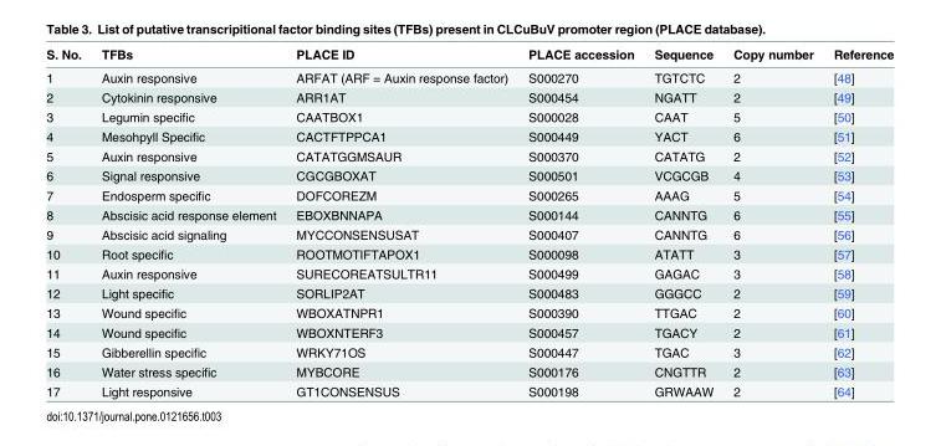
<table><thead><tr><td>S. No.</td><td>TFBs</td><td>PLACE ID</td><td>PLACE accession</td><td>Sequence</td><td>Copy number</td><td>Reference</td></tr></thead><tbody><tr><td>1</td><td>Auxin responsive</td><td>ARFAT (ARF = Auxin response factor)</td><td>S000270</td><td>TGTCTC</td><td>2</td><td>[48]</td></tr><tr><td>2</td><td>Cytokinin responsive</td><td>ARR1AT</td><td>S000454</td><td>NGATT</td><td>2</td><td>[49]</td></tr><tr><td>3</td><td>Legumin specific</td><td>CAATBOX1</td><td>S000028</td><td>CAAT</td><td>5</td><td>[50]</td></tr><tr><td>4</td><td>Mesohpyll Specific</td><td>CACTFTPPCA1</td><td>S000449</td><td>YACT</td><td>6</td><td>[51]</td></tr><tr><td>5</td><td>Auxin responsive</td><td>CATATGGMSAUR</td><td>S000370</td><td>CATATG</td><td>2</td><td>[52]</td></tr><tr><td>6</td><td>Signal responsive</td><td>CGCGBOXAT</td><td>S000501</td><td>VCGCGB</td><td>4</td><td>[53]</td></tr><tr><td>7</td><td>Endosperm specific</td><td>DOFCOREZM</td><td>S000265</td><td>AAAG</td><td>5</td><td>[54]</td></tr><tr><td>8</td><td>Abscisic acid response element</td><td>EBOXBNNAPA</td><td>S000144</td><td>CANNTG</td><td>6</td><td>[55]</td></tr><tr><td>9</td><td>Abscisic acid signaling</td><td>MYCCONSENSUSAT</td><td>S000407</td><td>CANNTG</td><td>6</td><td>[56]</td></tr><tr><td>10</td><td>Root specific</td><td>ROOTMOTIFTAPOX1</td><td>S000098</td><td>ATATT</td><td>3</td><td>[57]</td></tr><tr><td>11</td><td>Auxin responsive</td><td>SURECOREATSULTR11</td><td>S000499</td><td>GAGAC</td><td>3</td><td>[58]</td></tr><tr><td>12</td><td>Light specific</td><td>SORLIP2AT</td><td>S000483</td><td>GGGCC</td><td>2</td><td>[59]</td></tr><tr><td>13</td><td>Wound specific</td><td>WBOXATNPR1</td><td>S000390</td><td>TTGAC</td><td>2</td><td>[60]</td></tr><tr><td>14</td><td>Wound specific</td><td>WBOXNTERF3</td><td>S000457</td><td>TGACY</td><td>2</td><td>[61]</td></tr><tr><td>15</td><td>Gibberellin specific</td><td>WRKY71OS</td><td>S000447</td><td>TGAC</td><td>3</td><td>[62]</td></tr><tr><td>16</td><td>Water stress specific</td><td>MYBCORE</td><td>S000176</td><td>CNGTTR</td><td>2</td><td>[63]</td></tr><tr><td>17</td><td>Light responsive</td><td>GT1CONSENSUS</td><td>S000198</td><td>GRWAAW</td><td>2</td><td>[64]</td></tr></tbody></table>